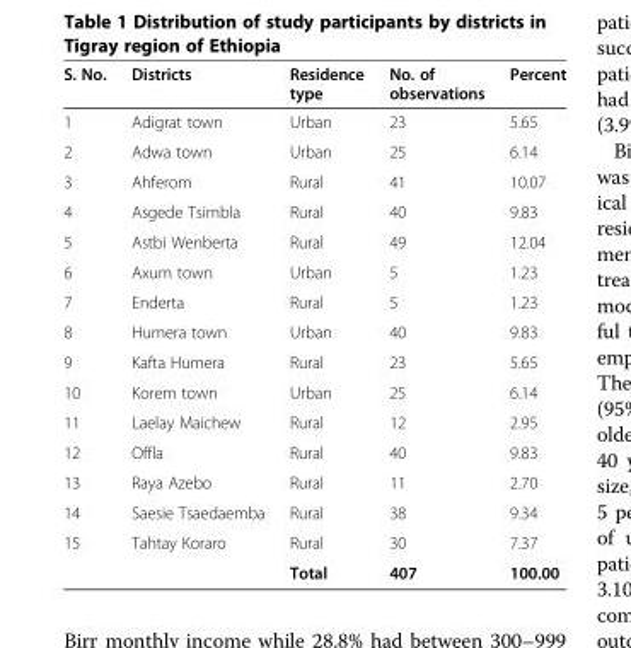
<table><thead><tr><td>S. No.</td><td>Districts</td><td>Residence type</td><td>No. of observations</td><td>Percent</td></tr></thead><tbody><tr><td>1</td><td>Adigrat town</td><td>Urban</td><td>23</td><td>5.65</td></tr><tr><td>2</td><td>Adwa town</td><td>Urban</td><td>25</td><td>6.14</td></tr><tr><td>3</td><td>Ahferom</td><td>Rural</td><td>41</td><td>10.07</td></tr><tr><td>4</td><td>Asgede Tsimbla</td><td>Rural</td><td>40</td><td>9.83</td></tr><tr><td>5</td><td>Astbi Wenberta</td><td>Rural</td><td>49</td><td>12.04</td></tr><tr><td>6</td><td>Axum town</td><td>Urban</td><td>5</td><td>1.23</td></tr><tr><td>7</td><td>Enderta</td><td>Rural</td><td>5</td><td>1.23</td></tr><tr><td>8</td><td>Humera town</td><td>Urban</td><td>40</td><td>9.83</td></tr><tr><td>9</td><td>Kafta Humera</td><td>Rural</td><td>23</td><td>5.65</td></tr><tr><td>10</td><td>Korem town</td><td>Urban</td><td>25</td><td>6.14</td></tr><tr><td>11</td><td>Laelay Maichew</td><td>Rural</td><td>12</td><td>2.95</td></tr><tr><td>12</td><td>Offla</td><td>Rural</td><td>40</td><td>9.83</td></tr><tr><td>13</td><td>Raya Azebo</td><td>Rural</td><td>11</td><td>2.70</td></tr><tr><td>14</td><td>Saesie Tsaedaemba</td><td>Rural</td><td>38</td><td>9.34</td></tr><tr><td rowspan="2">15</td><td>Tahtay Koraro</td><td>Rural</td><td>30</td><td>7.37</td></tr><tr><td></td><td>Total</td><td>407</td><td>100.00</td></tr></tbody></table>